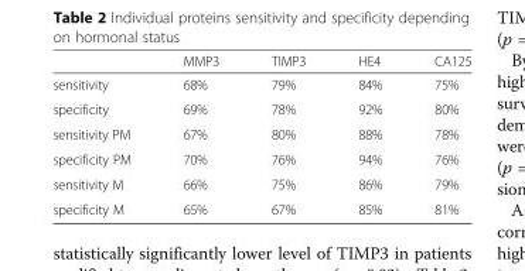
<table><thead><tr><td></td><td>MMP3</td><td>TIMP3</td><td>HE4</td><td>CA125</td></tr></thead><tbody><tr><td>sensitivity</td><td>68%</td><td>79%</td><td>84%</td><td>75%</td></tr><tr><td>specificity</td><td>69%</td><td>78%</td><td>92%</td><td>80%</td></tr><tr><td>sensitivity PM</td><td>67%</td><td>80%</td><td>88%</td><td>78%</td></tr><tr><td>specificity PM</td><td>70%</td><td>76%</td><td>94%</td><td>76%</td></tr><tr><td>sensitivity M</td><td>66%</td><td>75%</td><td>86%</td><td>79%</td></tr><tr><td>specificity M</td><td>65%</td><td>67%</td><td>85%</td><td>81%</td></tr></tbody></table>